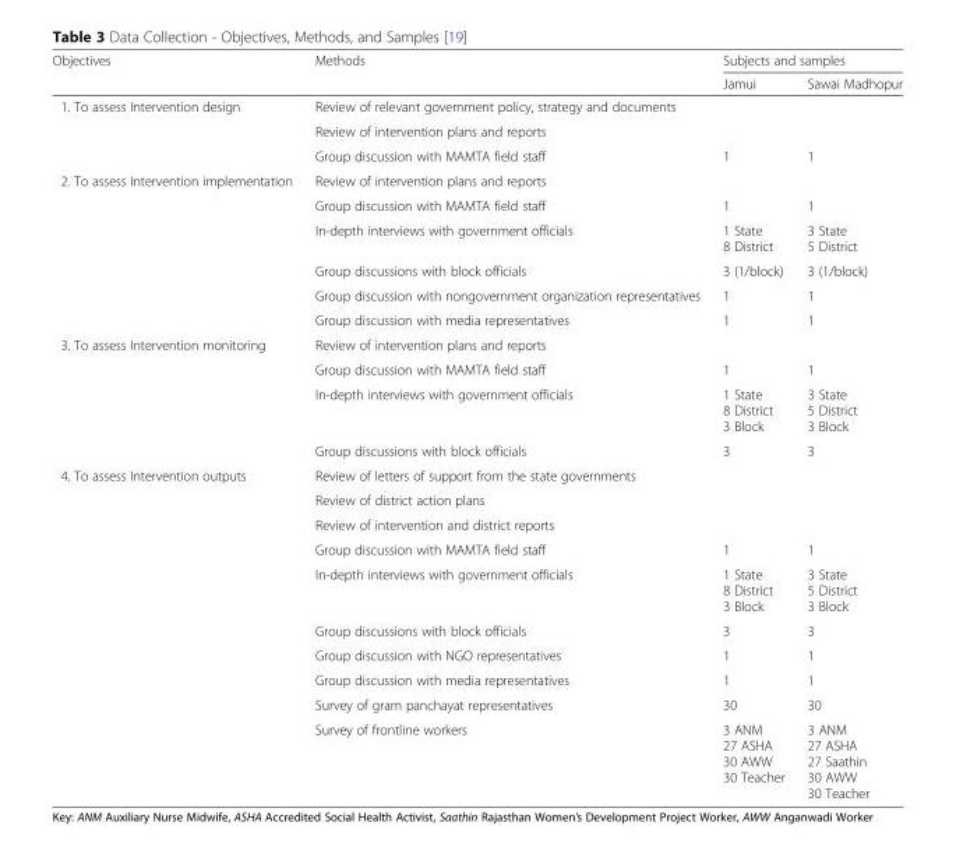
<table><thead><tr><td rowspan="2">Objectives</td><td rowspan="2">Methods</td><td colspan="2">Subjects and samples</td></tr><tr><td>Jamui</td><td>Sawai Madhopur</td></tr></thead><tbody><tr><td rowspan="3">1. To assess Intervention design</td><td>Review of relevant government policy, strategy and documents</td><td></td><td></td></tr><tr><td>Review of intervention plans and reports</td><td></td><td></td></tr><tr><td>Group discussion with MAMTA field staff</td><td>1</td><td>1</td></tr><tr><td rowspan="6">2. To assess Intervention implementation</td><td>Review of intervention plans and reports</td><td></td><td></td></tr><tr><td>Group discussion with MAMTA field staff</td><td>1</td><td>1</td></tr><tr><td>In-depth interviews with government officials</td><td>1 State 8 District</td><td>3 State 5 District</td></tr><tr><td>Group discussions with block officials</td><td>3 (1/block)</td><td>3 (1/block)</td></tr><tr><td>Group discussion with nongovernment organization representatives</td><td>1</td><td>1</td></tr><tr><td>Group discussion with media representatives</td><td>1</td><td>1</td></tr><tr><td rowspan="4">3. To assess Intervention monitoring</td><td>Review of intervention plans and reports</td><td colspan="2"></td></tr><tr><td>Group discussion with MAMTA field staff</td><td>1</td><td>1</td></tr><tr><td>In-depth interviews with government officials</td><td>1 State 8 District 3 Block</td><td>3 State 5 District 3 Block</td></tr><tr><td>Group discussions with block officials</td><td>3</td><td>3</td></tr><tr><td rowspan="10">4. To assess Intervention outputs</td><td>Review of letters of support from the state governments</td><td></td><td></td></tr><tr><td>Review of district action plans</td><td></td><td></td></tr><tr><td>Review of intervention and district reports</td><td></td><td></td></tr><tr><td>Group discussion with MAMTA field staff</td><td>1</td><td>1</td></tr><tr><td>In-depth interviews with government officials</td><td>1 State 8 District 3 Block</td><td>3 State 5 District 3 Block</td></tr><tr><td>Group discussions with block officials</td><td>3</td><td>3</td></tr><tr><td>Group discussion with NGO representatives</td><td>1</td><td>1</td></tr><tr><td>Group discussion with media representatives</td><td>1</td><td>1</td></tr><tr><td>Survey of gram panchayat representatives</td><td>30</td><td>30</td></tr><tr><td>Survey of frontline workers</td><td>3 ANM 27 ASHA 30 AWW 30 Teacher</td><td>3 ANM 27 ASHA 27 Saathin 30 AWW 30 Teacher</td></tr></tbody></table>